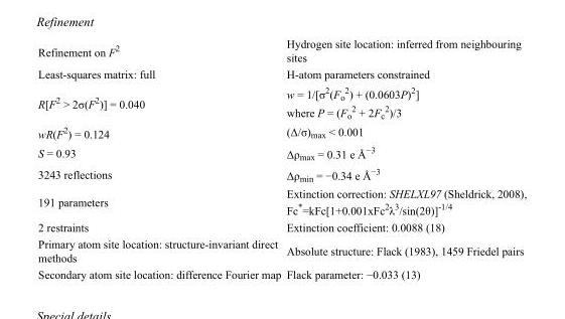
<table><tbody><tr><td>Refinement on F<sup>2</sup></td><td>Hydrogen site location: inferred from neighbouring sites</td></tr><tr><td>Least-squares matrix: full</td><td>H-atom parameters constrained</td></tr><tr><td>R[F<sup>2</sup> &gt; 2σ(F<sup>2</sup>)] = 0.040</td><td>w = 1/[σ<sup>2</sup>(F<sub>o</sub> <sup>2</sup>) + (0.0603P)<sup>2</sup>] where P = (F<sub>o</sub> <sup>2</sup> + 2F<sub>c</sub> <sup>2</sup>)/3</td></tr><tr><td>wR(F<sup>2</sup>) = 0.124</td><td>(Δ/σ)<sub>max</sub> &lt; 0.001</td></tr><tr><td>S = 0.93</td><td>Δρ<sub>max</sub> = 0.31 e Å<sup>−3</sup></td></tr><tr><td>3243 reflections</td><td>Δρ<sub>min</sub> = −0.34 e Å<sup>−3</sup></td></tr><tr><td>191 parameters</td><td>Extinction correction: SHELXL97 (Sheldrick, 2008), Fc*=kFc[1+0.001xFc<sup>2</sup>λ<sup>3</sup>/sin(2θ)]<sup>-1/4</sup></td></tr><tr><td>2 restraints</td><td>Extinction coefficient: 0.0088 (18)</td></tr><tr><td>Primary atom site location: structure-invariant direct methods</td><td>Absolute structure: Flack (1983), 1459 Friedel pairs</td></tr><tr><td>Secondary atom site location: difference Fourier map</td><td>Flack parameter: −0.033 (13)</td></tr></tbody></table>